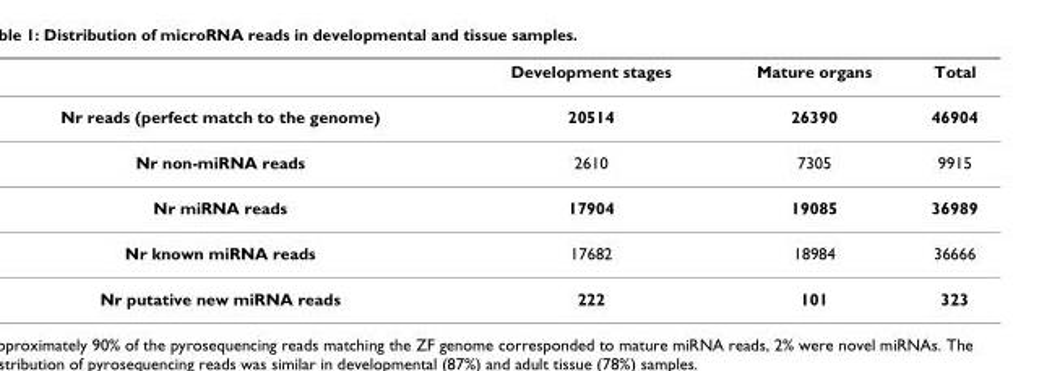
<table><thead><tr><td></td><td>Development stages</td><td>Mature organs</td><td>Total</td></tr></thead><tbody><tr><td>Nr reads (perfect match to the genome)</td><td>20514</td><td>26390</td><td>46904</td></tr><tr><td>Nr non-miRNA reads</td><td>2610</td><td>7305</td><td>9915</td></tr><tr><td>Nr miRNA reads</td><td>17904</td><td>19085</td><td>36989</td></tr><tr><td>Nr known miRNA reads</td><td>17682</td><td>18984</td><td>36666</td></tr><tr><td>Nr putative new miRNA reads</td><td>222</td><td>101</td><td>323</td></tr></tbody></table>